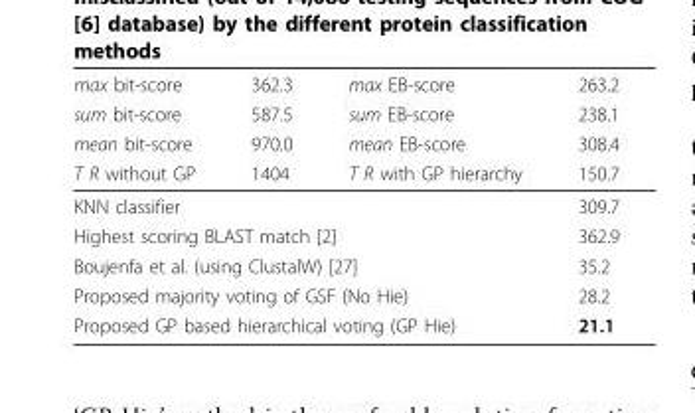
<table><thead><tr><td rowspan="4">max bit-score sum bit-score mean bit-score T R without GP</td><td rowspan="4">362.3 587.5 970.0 1404</td><td rowspan="4">max EB-score sum EB-score mean EB-score T R with GP hierarchy</td><td rowspan="4">263.2 238.1 308.4 150.7</td></tr><tr></tr><tr></tr><tr></tr></thead><tbody><tr><td colspan="3">KNN classifier</td><td>309.7</td></tr><tr><td colspan="3">Highest scoring BLAST match [2]</td><td>362.9</td></tr><tr><td colspan="3">Boujenfa et al. (using ClustalW) [27]</td><td>35.2</td></tr><tr><td colspan="3">Proposed majority voting of GSF (No Hie)</td><td>28.2</td></tr><tr><td colspan="3">Proposed GP based hierarchical voting (GP Hie)</td><td>21.1</td></tr></tbody></table>